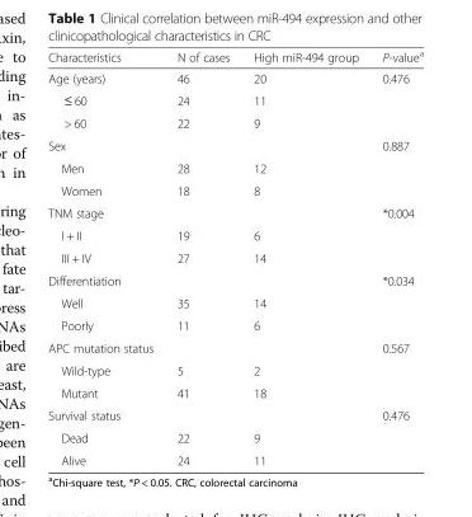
<table><thead><tr><td>Characteristics</td><td>N of cases</td><td>High miR-494 group</td><td>P-value<sup>a</sup></td></tr></thead><tbody><tr><td>Age (years)</td><td>46</td><td>20</td><td>0.476</td></tr><tr><td>≤ 60</td><td>24</td><td>11</td><td></td></tr><tr><td>&gt; 60</td><td>22</td><td>9</td><td></td></tr><tr><td>Sex</td><td></td><td></td><td>0.887</td></tr><tr><td>Men</td><td>28</td><td>12</td><td></td></tr><tr><td>Women</td><td>18</td><td>8</td><td></td></tr><tr><td>TNM stage</td><td></td><td></td><td>*0.004</td></tr><tr><td>I + II</td><td>19</td><td>6</td><td></td></tr><tr><td>III + IV</td><td>27</td><td>14</td><td></td></tr><tr><td>Differentiation</td><td></td><td></td><td>*0.034</td></tr><tr><td>Well</td><td>35</td><td>14</td><td></td></tr><tr><td>Poorly</td><td>11</td><td>6</td><td></td></tr><tr><td>APC mutation status</td><td></td><td></td><td>0.567</td></tr><tr><td>Wild-type</td><td>5</td><td>2</td><td></td></tr><tr><td>Mutant</td><td>41</td><td>18</td><td></td></tr><tr><td>Survival status</td><td></td><td></td><td>0.476</td></tr><tr><td>Dead</td><td>22</td><td>9</td><td></td></tr><tr><td>Alive</td><td>24</td><td>11</td><td></td></tr></tbody></table>